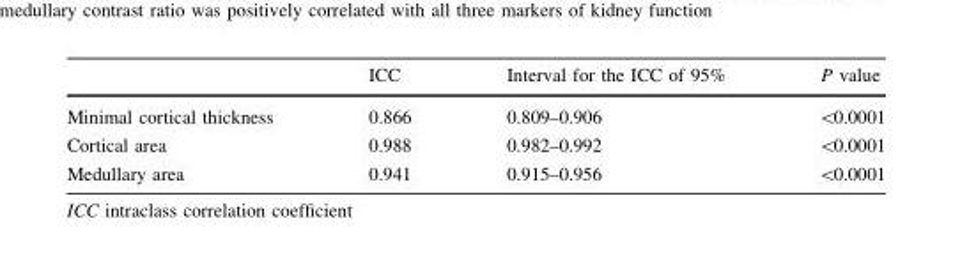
<table><thead><tr><td></td><td>ICC</td><td>Interval for the ICC of 95%</td><td>P value</td></tr></thead><tbody><tr><td>Minimal cortical thickness</td><td>0.866</td><td>0.809–0.906</td><td>&lt;0.0001</td></tr><tr><td>Cortical area</td><td>0.988</td><td>0.982–0.992</td><td>&lt;0.0001</td></tr><tr><td>Medullary area</td><td>0.941</td><td>0.915–0.956</td><td>&lt;0.0001</td></tr></tbody></table>